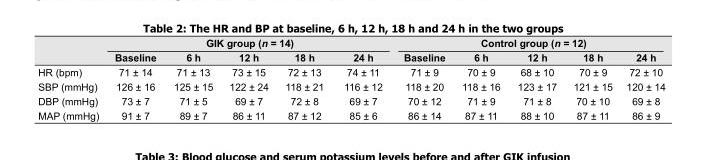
<table><thead><tr><td rowspan="2"></td><td colspan="5">GIK group (n = 14)</td><td colspan="5">Control group (n = 12)</td></tr><tr><td>Baseline</td><td>6 h</td><td>12 h</td><td>18 h</td><td>24 h</td><td>Baseline</td><td>6 h</td><td>12 h</td><td>18 h</td><td>24 h</td></tr></thead><tbody><tr><td>HR (bpm)</td><td>71 ± 14</td><td>71 ± 13</td><td>73 ± 15</td><td>72 ± 13</td><td>74 ± 11</td><td>71 ± 9</td><td>70 ± 9</td><td>68 ± 10</td><td>70 ± 9</td><td>72 ± 10</td></tr><tr><td>SBP (mmHg)</td><td>126 ± 16</td><td>125 ± 15</td><td>122 ± 24</td><td>118 ± 21</td><td>116 ± 12</td><td>118 ± 20</td><td>118 ± 16</td><td>123 ± 17</td><td>121 ± 15</td><td>120 ± 14</td></tr><tr><td>DBP (mmHg)</td><td>73 ± 7</td><td>71 ± 5</td><td>69 ± 7</td><td>72 ± 8</td><td>69 ± 7</td><td>70 ± 12</td><td>71 ± 9</td><td>71 ± 8</td><td>70 ± 10</td><td>69 ± 8</td></tr><tr><td>MAP (mmHg)</td><td>91 ± 7</td><td>89 ± 7</td><td>86 ± 11</td><td>87 ± 12</td><td>85 ± 6</td><td>86 ± 14</td><td>87 ± 11</td><td>88 ± 10</td><td>87 ± 11</td><td>86 ± 9</td></tr></tbody></table>